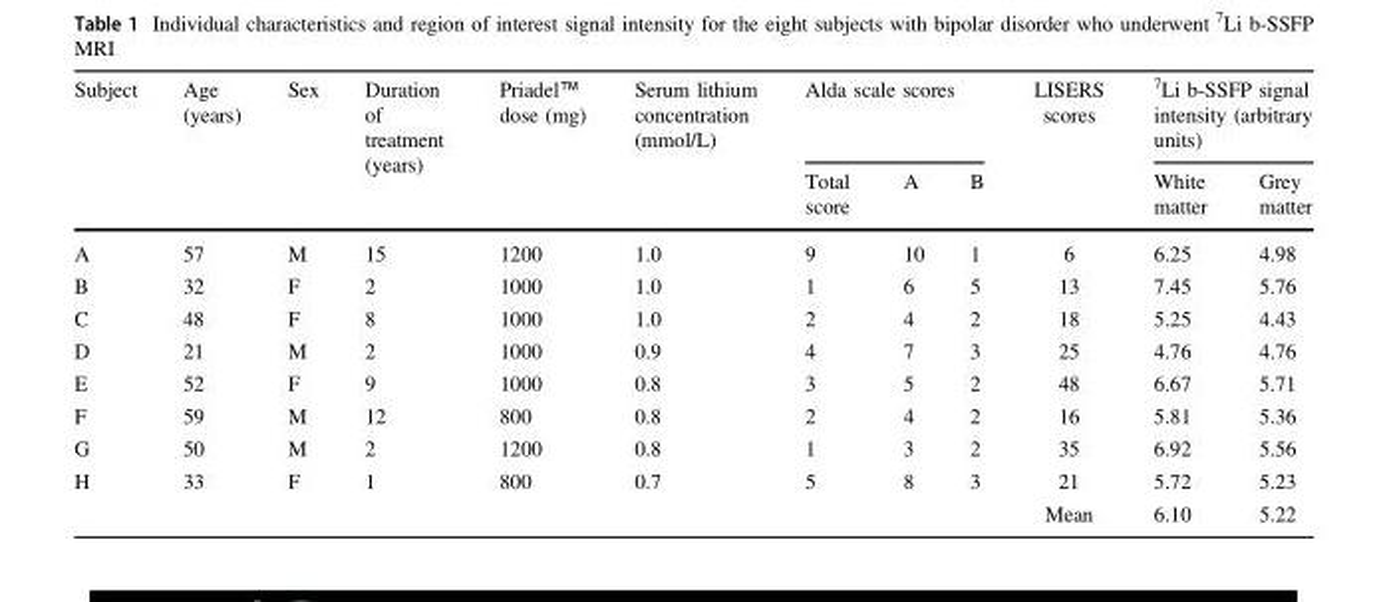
<table><thead><tr><td rowspan="2">Subject</td><td rowspan="2">Age (years)</td><td rowspan="2">Sex</td><td rowspan="2">Duration of treatment (years)</td><td rowspan="2">Priadel™ dose (mg)</td><td rowspan="2">Serum lithium concentration (mmol/L)</td><td colspan="3">Alda scale scores</td><td rowspan="2">LISERS scores</td><td colspan="2"><sup>7</sup>Li b-SSFP signal intensity (arbitrary units)</td></tr><tr><td>Total score</td><td>A</td><td>B</td><td>White matter</td><td>Grey matter</td></tr></thead><tbody><tr><td>A</td><td>57</td><td>M</td><td>15</td><td>1200</td><td>1.0</td><td>9</td><td>10</td><td>1</td><td>6</td><td>6.25</td><td>4.98</td></tr><tr><td>B</td><td>32</td><td>F</td><td>2</td><td>1000</td><td>1.0</td><td>1</td><td>6</td><td>5</td><td>13</td><td>7.45</td><td>5.76</td></tr><tr><td>C</td><td>48</td><td>F</td><td>8</td><td>1000</td><td>1.0</td><td>2</td><td>4</td><td>2</td><td>18</td><td>5.25</td><td>4.43</td></tr><tr><td>D</td><td>21</td><td>M</td><td>2</td><td>1000</td><td>0.9</td><td>4</td><td>7</td><td>3</td><td>25</td><td>4.76</td><td>4.76</td></tr><tr><td>E</td><td>52</td><td>F</td><td>9</td><td>1000</td><td>0.8</td><td>3</td><td>5</td><td>2</td><td>48</td><td>6.67</td><td>5.71</td></tr><tr><td>F</td><td>59</td><td>M</td><td>12</td><td>800</td><td>0.8</td><td>2</td><td>4</td><td>2</td><td>16</td><td>5.81</td><td>5.36</td></tr><tr><td>G</td><td>50</td><td>M</td><td>2</td><td>1200</td><td>0.8</td><td>1</td><td>3</td><td>2</td><td>35</td><td>6.92</td><td>5.56</td></tr><tr><td rowspan="2">H</td><td>33</td><td>F</td><td>1</td><td>800</td><td>0.7</td><td>5</td><td>8</td><td>3</td><td>21</td><td>5.72</td><td>5.23</td></tr><tr><td></td><td></td><td></td><td></td><td></td><td></td><td></td><td></td><td>Mean</td><td>6.10</td><td>5.22</td></tr></tbody></table>